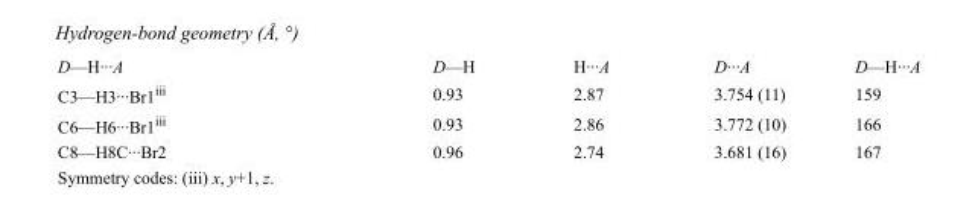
<table><tbody><tr><td>D—H···A</td><td>D—H</td><td>H···A</td><td>D···A</td><td>D—H···A</td></tr><tr><td>C3—H3···Br1<sup>iii</sup></td><td>0.93</td><td>2.87</td><td>3.754 (11)</td><td>159</td></tr><tr><td>C6—H6···Br1<sup>iii</sup></td><td>0.93</td><td>2.86</td><td>3.772 (10)</td><td>166</td></tr><tr><td>C8—H8C···Br2</td><td>0.96</td><td>2.74</td><td>3.681 (16)</td><td>167</td></tr></tbody></table>